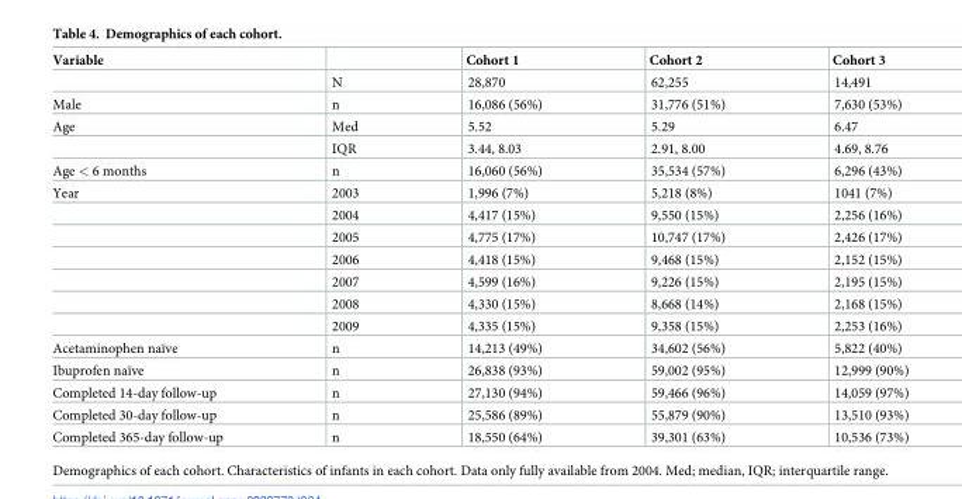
<table><thead><tr><td>Variable</td><td></td><td>Cohort 1</td><td>Cohort 2</td><td>Cohort 3</td></tr></thead><tbody><tr><td></td><td>N</td><td>28,870</td><td>62,255</td><td>14,491</td></tr><tr><td>Male</td><td>n</td><td>16,086 (56%)</td><td>31,776 (51%)</td><td>7,630 (53%)</td></tr><tr><td rowspan="2">Age</td><td>Med</td><td>5.52</td><td>5.29</td><td>6.47</td></tr><tr><td>IQR</td><td>3.44, 8.03</td><td>2.91, 8.00</td><td>4.69, 8.76</td></tr><tr><td>Age &lt; 6 months</td><td>n</td><td>16,060 (56%)</td><td>35,534 (57%)</td><td>6,296 (43%)</td></tr><tr><td rowspan="7">Year</td><td>2003</td><td>1,996 (7%)</td><td>5,218 (8%)</td><td>1041 (7%)</td></tr><tr><td>2004</td><td>4,417 (15%)</td><td>9,550 (15%)</td><td>2,256 (16%)</td></tr><tr><td>2005</td><td>4,775 (17%)</td><td>10,747 (17%)</td><td>2,426 (17%)</td></tr><tr><td>2006</td><td>4,418 (15%)</td><td>9,468 (15%)</td><td>2,152 (15%)</td></tr><tr><td>2007</td><td>4,599 (16%)</td><td>9,226 (15%)</td><td>2,195 (15%)</td></tr><tr><td>2008</td><td>4,330 (15%)</td><td>8,668 (14%)</td><td>2,168 (15%)</td></tr><tr><td>2009</td><td>4,335 (15%)</td><td>9,358 (15%)</td><td>2,253 (16%)</td></tr><tr><td>Acetaminophen naïve</td><td>n</td><td>14,213 (49%)</td><td>34,602 (56%)</td><td>5,822 (40%)</td></tr><tr><td>Ibuprofen naïve</td><td>n</td><td>26,838 (93%)</td><td>59,002 (95%)</td><td>12,999 (90%)</td></tr><tr><td>Completed 14-day follow-up</td><td>n</td><td>27,130 (94%)</td><td>59,466 (96%)</td><td>14,059 (97%)</td></tr><tr><td>Completed 30-day follow-up</td><td>n</td><td>25,586 (89%)</td><td>55,879 (90%)</td><td>13,510 (93%)</td></tr><tr><td>Completed 365-day follow-up</td><td>n</td><td>18,550 (64%)</td><td>39,301 (63%)</td><td>10,536 (73%)</td></tr></tbody></table>